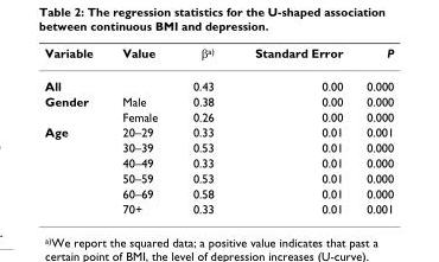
<table><thead><tr><td>Variable</td><td>Value</td><td>β<sup>a)</sup></td><td>Standard Error</td><td>P</td></tr></thead><tbody><tr><td>All</td><td></td><td>0.43</td><td>0.00</td><td>0.000</td></tr><tr><td rowspan="2">Gender</td><td>Male</td><td>0.38</td><td>0.00</td><td>0.000</td></tr><tr><td>Female</td><td>0.26</td><td>0.00</td><td>0.000</td></tr><tr><td rowspan="6">Age</td><td>20–29</td><td>0.33</td><td>0.01</td><td>0.001</td></tr><tr><td>30–39</td><td>0.53</td><td>0.01</td><td>0.000</td></tr><tr><td>40–49</td><td>0.33</td><td>0.01</td><td>0.000</td></tr><tr><td>50–59</td><td>0.53</td><td>0.01</td><td>0.000</td></tr><tr><td>60–69</td><td>0.58</td><td>0.01</td><td>0.000</td></tr><tr><td>70+</td><td>0.33</td><td>0.01</td><td>0.001</td></tr></tbody></table>